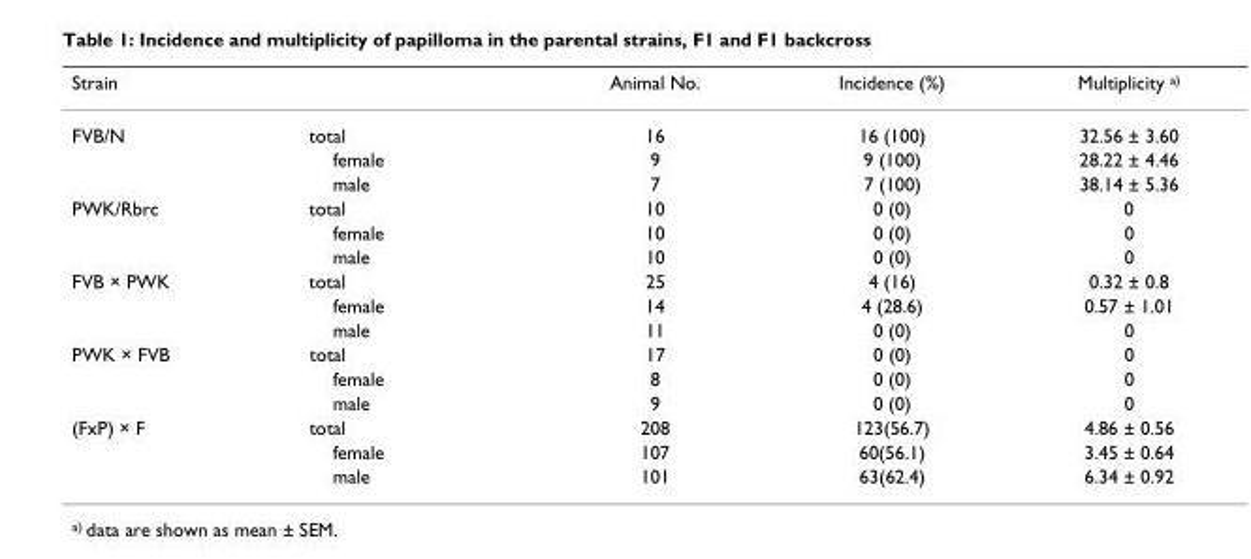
<table><thead><tr><td>Strain</td><td></td><td>Animal No.</td><td>Incidence (%)</td><td>Multiplicity <sup>a)</sup></td></tr></thead><tbody><tr><td rowspan="3">FVB/N</td><td>total</td><td>16</td><td>16 (100)</td><td>32.56 ± 3.60</td></tr><tr><td>female</td><td>9</td><td>9 (100)</td><td>28.22 ± 4.46</td></tr><tr><td>male</td><td>7</td><td>7 (100)</td><td>38.14 ± 5.36</td></tr><tr><td rowspan="3">PWK/Rbrc</td><td>total</td><td>10</td><td>0 (0)</td><td>0</td></tr><tr><td>female</td><td>10</td><td>0 (0)</td><td>0</td></tr><tr><td>male</td><td>10</td><td>0 (0)</td><td>0</td></tr><tr><td rowspan="3">FVB × PWK</td><td>total</td><td>25</td><td>4 (16)</td><td>0.32 ± 0.8</td></tr><tr><td>female</td><td>14</td><td>4 (28.6)</td><td>0.57 ± 1.01</td></tr><tr><td>male</td><td>11</td><td>0 (0)</td><td>0</td></tr><tr><td rowspan="3">PWK × FVB</td><td>total</td><td>17</td><td>0 (0)</td><td>0</td></tr><tr><td>female</td><td>8</td><td>0 (0)</td><td>0</td></tr><tr><td>male</td><td>9</td><td>0 (0)</td><td>0</td></tr><tr><td rowspan="3">(FxP) × F</td><td>total</td><td>208</td><td>123(56.7)</td><td>4.86 ± 0.56</td></tr><tr><td>female</td><td>107</td><td>60(56.1)</td><td>3.45 ± 0.64</td></tr><tr><td>male</td><td>101</td><td>63(62.4)</td><td>6.34 ± 0.92</td></tr></tbody></table>